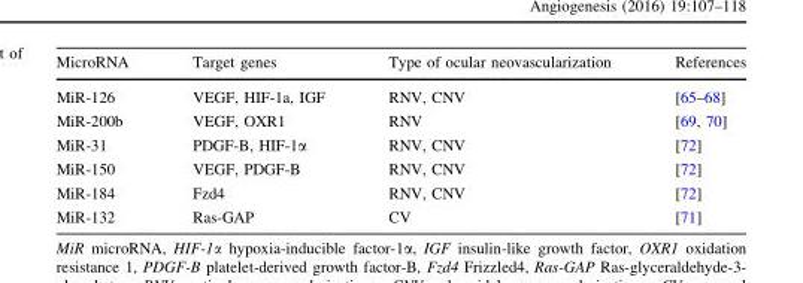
<table><thead><tr><td>MicroRNA</td><td>Target genes</td><td>Type of ocular neovascularization</td><td>References</td></tr></thead><tbody><tr><td>MiR-126</td><td>VEGF, HIF-1a, IGF</td><td>RNV, CNV</td><td>[65–68]</td></tr><tr><td>MiR-200b</td><td>VEGF, OXR1</td><td>RNV</td><td>[69, 70]</td></tr><tr><td>MiR-31</td><td>PDGF-B, HIF-1α</td><td>RNV, CNV</td><td>[72]</td></tr><tr><td>MiR-150</td><td>VEGF, PDGF-B</td><td>RNV, CNV</td><td>[72]</td></tr><tr><td>MiR-184</td><td>Fzd4</td><td>RNV, CNV</td><td>[72]</td></tr><tr><td>MiR-132</td><td>Ras-GAP</td><td>CV</td><td>[71]</td></tr></tbody></table>